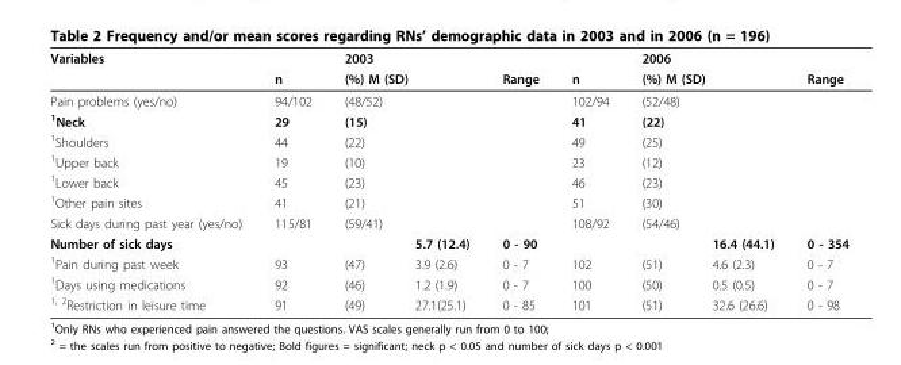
<table><thead><tr><td rowspan="3">Variables Pain problems (yes/no)</td><td rowspan="3">n 94/102</td><td rowspan="2" colspan="2">2003 (%) M (SD)</td><td rowspan="3">Range</td><td rowspan="3">n 102/94</td><td rowspan="2" colspan="2">2006 (%) M (SD)</td><td rowspan="3">Range</td></tr><tr></tr><tr><td>(48/52)</td><td></td><td>(52/48)</td><td></td></tr></thead><tbody><tr><td><sup>1</sup>Neck</td><td>29</td><td>(15)</td><td></td><td></td><td>41</td><td>(22)</td><td></td><td></td></tr><tr><td><sup>1</sup>Shoulders</td><td>44</td><td>(22)</td><td></td><td></td><td>49</td><td>(25)</td><td></td><td></td></tr><tr><td><sup>1</sup>Upper back</td><td>19</td><td>(10)</td><td></td><td></td><td>23</td><td>(12)</td><td></td><td></td></tr><tr><td><sup>1</sup>Lower back</td><td>45</td><td>(23)</td><td></td><td></td><td>46</td><td>(23)</td><td></td><td></td></tr><tr><td><sup>1</sup>Other pain sites</td><td>41</td><td>(21)</td><td></td><td></td><td>51</td><td>(30)</td><td></td><td></td></tr><tr><td>Sick days during past year (yes/no)</td><td>115/81</td><td>(59/41)</td><td></td><td></td><td>108/92</td><td>(54/46)</td><td></td><td></td></tr><tr><td>Number of sick days</td><td></td><td></td><td>5.7 (12.4)</td><td>0 - 90</td><td></td><td></td><td>16.4 (44.1)</td><td>0 - 354</td></tr><tr><td><sup>1</sup>Pain during past week</td><td>93</td><td>(47)</td><td>3.9 (2.6)</td><td>0 - 7</td><td>102</td><td>(51)</td><td>4.6 (2.3)</td><td>0 - 7</td></tr><tr><td><sup>1</sup>Days using medications</td><td>92</td><td>(46)</td><td>1.2 (1.9)</td><td>0 - 7</td><td>100</td><td>(50)</td><td>0.5 (0.5)</td><td>0 - 7</td></tr><tr><td><sup>1, 2</sup>Restriction in leisure time</td><td>91</td><td>(49)</td><td>27.1(25.1)</td><td>0 - 85</td><td>101</td><td>(51)</td><td>32.6 (26.6)</td><td>0 - 98</td></tr></tbody></table>